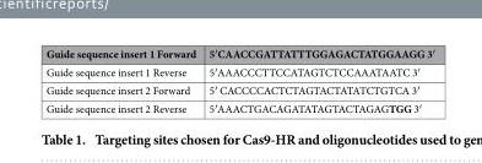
<table><thead><tr><td>Guide sequence insert 1 Forward</td><td>5′ CAACCGATTATTTGGAGACTATGGAAGG 3′</td></tr></thead><tbody><tr><td>Guide sequence insert 1 Reverse</td><td>5′ AAACCCTTCCATAGTCTCCAAATAATC 3′</td></tr><tr><td>Guide sequence insert 2 Forward</td><td>5′ CACCCCACTCTAGTACTATATCTGTCA 3′</td></tr><tr><td>Guide sequence insert 2 Reverse</td><td>5′ AAACTGACAGATATAGTACTAGAGTGG 3′</td></tr></tbody></table>